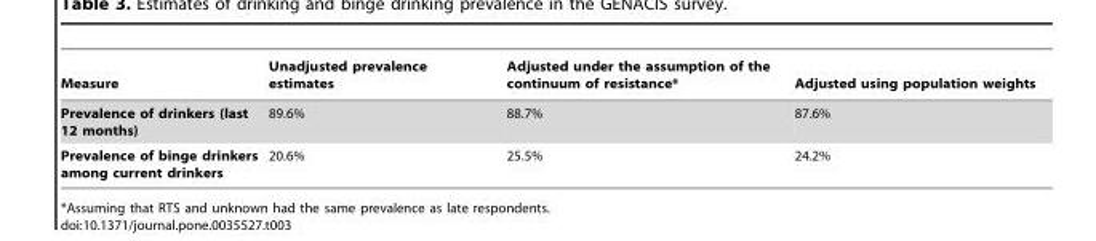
<table><thead><tr><td>Measure</td><td>Unadjusted prevalence estimates</td><td>Adjusted under the assumption of the continuum of resistance*</td><td>Adjusted using population weights</td></tr></thead><tbody><tr><td>Prevalence of drinkers (last 12 months)</td><td>89.6%</td><td>88.7%</td><td>87.6%</td></tr><tr><td>Prevalence of binge drinkers among current drinkers</td><td>20.6%</td><td>25.5%</td><td>24.2%</td></tr></tbody></table>